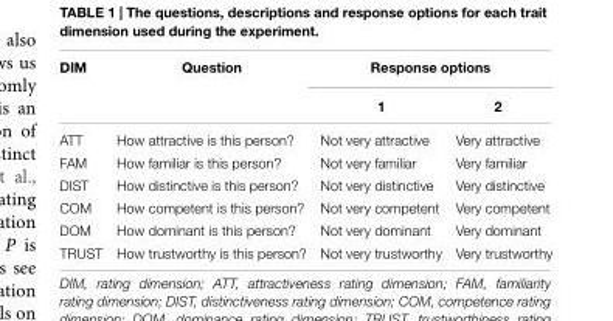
<table><thead><tr><td rowspan="2">DIM</td><td rowspan="2">Question</td><td colspan="2">Response options</td></tr><tr><td>1</td><td>2</td></tr></thead><tbody><tr><td>ATT</td><td>How attractive is this person?</td><td>Not very attractive</td><td>Very attractive</td></tr><tr><td>FAM</td><td>How familiar is this person?</td><td>Not very familiar</td><td>Very familiar</td></tr><tr><td>DIST</td><td>How distinctive is this person?</td><td>Not very distinctive</td><td>Very distinctive</td></tr><tr><td>COM</td><td>How competent is this person?</td><td>Not very competent</td><td>Very competent</td></tr><tr><td>DOM</td><td>How dominant is this person?</td><td>Not very dominant</td><td>Very dominant</td></tr><tr><td>TRUST</td><td>How trustworthy is this person?</td><td>Not very trustworthy</td><td>Very trustworthy</td></tr></tbody></table>